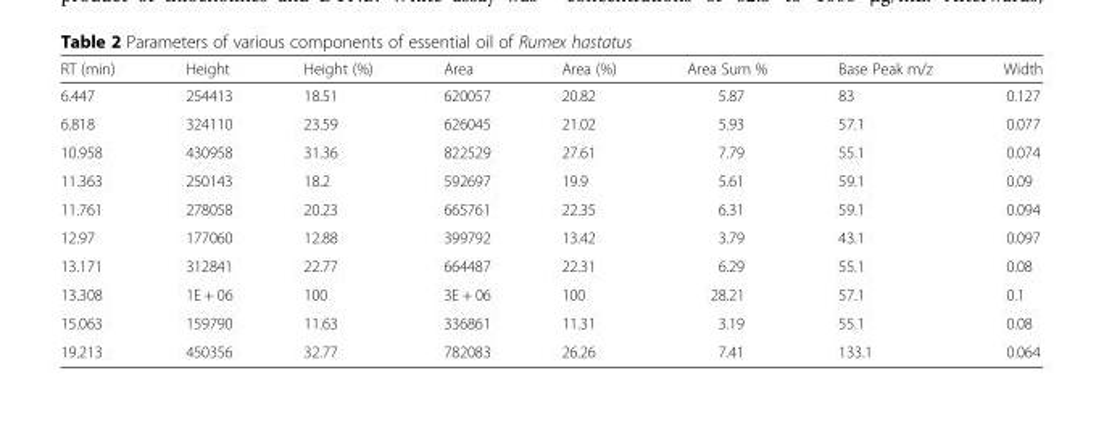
<table><thead><tr><td>RT (min)</td><td>Height</td><td>Height (%)</td><td>Area</td><td>Area (%)</td><td>Area Sum %</td><td>Base Peak m/z</td><td>Width</td></tr></thead><tbody><tr><td>6.447</td><td>254413</td><td>18.51</td><td>620057</td><td>20.82</td><td>5.87</td><td>83</td><td>0.127</td></tr><tr><td>6.818</td><td>324110</td><td>23.59</td><td>626045</td><td>21.02</td><td>5.93</td><td>57.1</td><td>0.077</td></tr><tr><td>10.958</td><td>430958</td><td>31.36</td><td>822529</td><td>27.61</td><td>7.79</td><td>55.1</td><td>0.074</td></tr><tr><td>11.363</td><td>250143</td><td>18.2</td><td>592697</td><td>19.9</td><td>5.61</td><td>59.1</td><td>0.09</td></tr><tr><td>11.761</td><td>278058</td><td>20.23</td><td>665761</td><td>22.35</td><td>6.31</td><td>59.1</td><td>0.094</td></tr><tr><td>12.97</td><td>177060</td><td>12.88</td><td>399792</td><td>13.42</td><td>3.79</td><td>43.1</td><td>0.097</td></tr><tr><td>13.171</td><td>312841</td><td>22.77</td><td>664487</td><td>22.31</td><td>6.29</td><td>55.1</td><td>0.08</td></tr><tr><td>13.308</td><td>1E + 06</td><td>100</td><td>3E + 06</td><td>100</td><td>28.21</td><td>57.1</td><td>0.1</td></tr><tr><td>15.063</td><td>159790</td><td>11.63</td><td>336861</td><td>11.31</td><td>3.19</td><td>55.1</td><td>0.08</td></tr><tr><td>19.213</td><td>450356</td><td>32.77</td><td>782083</td><td>26.26</td><td>7.41</td><td>133.1</td><td>0.064</td></tr></tbody></table>